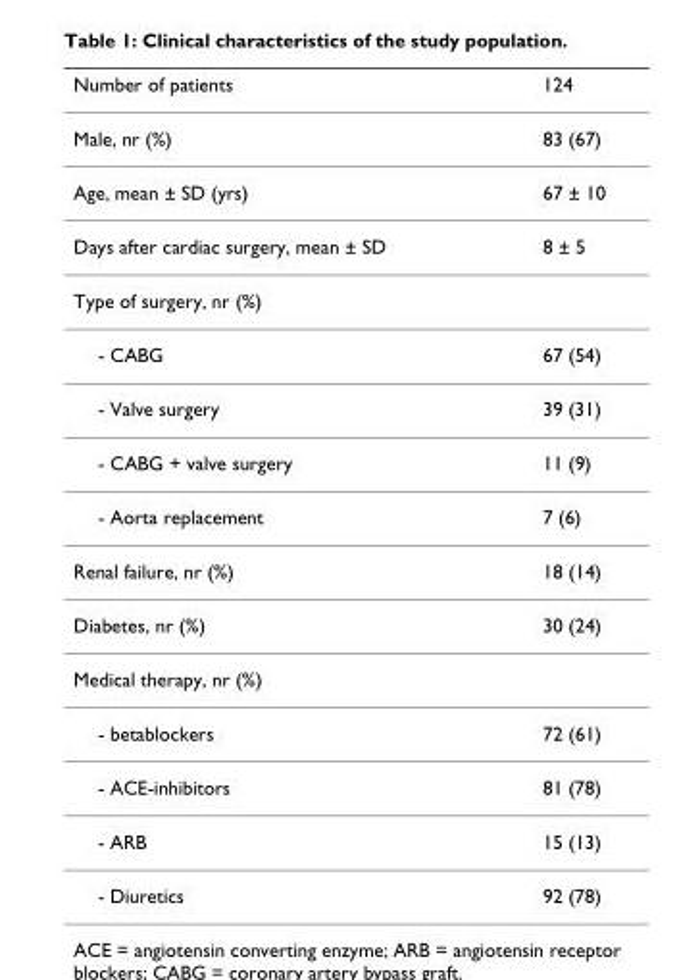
<table><thead><tr><td>Number of patients</td><td>124</td></tr></thead><tbody><tr><td>Male, nr (%)</td><td>83 (67)</td></tr><tr><td>Age, mean ± SD (yrs)</td><td>67 ± 10</td></tr><tr><td>Days after cardiac surgery, mean ± SD</td><td>8 ± 5</td></tr><tr><td colspan="2">Type of surgery, nr (%)</td></tr><tr><td>- CABG</td><td>67 (54)</td></tr><tr><td>- Valve surgery</td><td>39 (31)</td></tr><tr><td>- CABG + valve surgery</td><td>11 (9)</td></tr><tr><td>- Aorta replacement</td><td>7 (6)</td></tr><tr><td>Renal failure, nr (%)</td><td>18 (14)</td></tr><tr><td>Diabetes, nr (%)</td><td>30 (24)</td></tr><tr><td colspan="2">Medical therapy, nr (%)</td></tr><tr><td>- betablockers</td><td>72 (61)</td></tr><tr><td>- ACE-inhibitors</td><td>81 (78)</td></tr><tr><td>- ARB</td><td>15 (13)</td></tr><tr><td>- Diuretics</td><td>92 (78)</td></tr></tbody></table>